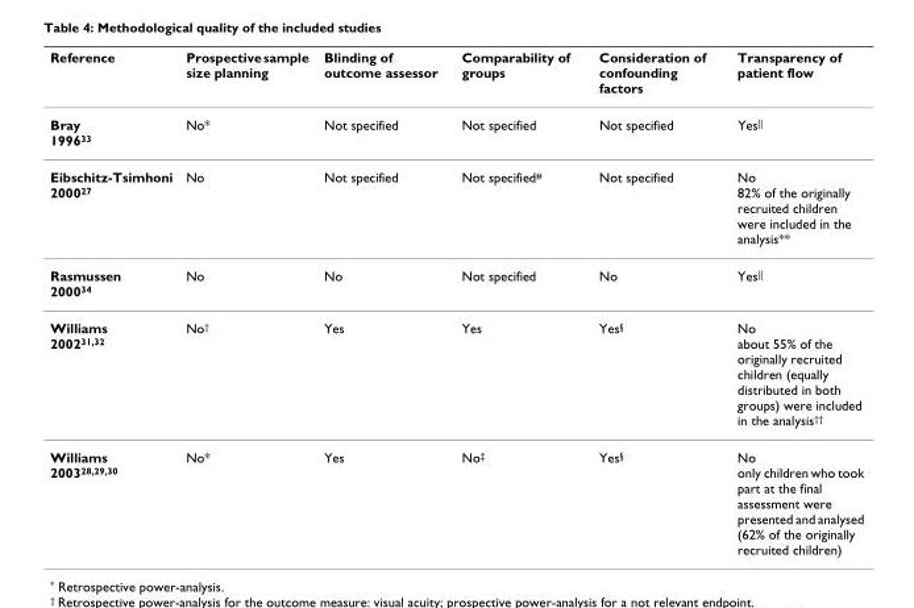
<table><thead><tr><td>Reference</td><td>Prospective sample size planning</td><td>Blinding of outcome assessor</td><td>Comparability of groups</td><td>Consideration of confounding factors</td><td>Transparency of patient flow</td></tr></thead><tbody><tr><td>Bray 1996<sup>33</sup></td><td>No*</td><td>Not specified</td><td>Not specified</td><td>Not specified</td><td>Yes<sup>||</sup></td></tr><tr><td>Eibschitz-Tsimhoni 2000<sup>27</sup></td><td>No</td><td>Not specified</td><td>Not specified<sup>#</sup></td><td>Not specified</td><td>No 82% of the originally recruited children were included in the analysis**</td></tr><tr><td>Rasmussen 2000<sup>34</sup></td><td>No</td><td>No</td><td>Not specified</td><td>No</td><td>Yes<sup>||</sup></td></tr><tr><td>Williams 2002<sup>31,32</sup></td><td>No<sup>†</sup></td><td>Yes</td><td>Yes</td><td>Yes<sup>§</sup></td><td>No about 55% of the originally recruited children (equally distributed in both groups) were included in the analysis<sup>††</sup></td></tr><tr><td>Williams 2003<sup>28,29,30</sup></td><td>No*</td><td>Yes</td><td>No<sup>‡</sup></td><td>Yes<sup>§</sup></td><td>No only children who took part at the final assessment were presented and analysed (62% of the originally recruited children)</td></tr></tbody></table>